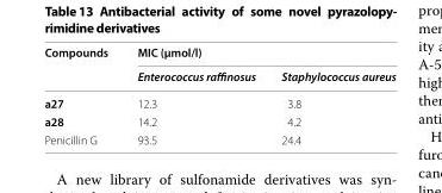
<table><thead><tr><td rowspan="2">Compounds</td><td colspan="2">MIC (µmol/l)</td></tr><tr><td>Enterococcus raffinosus</td><td>Staphylococcus aureus</td></tr></thead><tbody><tr><td>a27</td><td>12.3</td><td>3.8</td></tr><tr><td>a28</td><td>14.2</td><td>4.2</td></tr><tr><td>Penicillin G</td><td>93.5</td><td>24.4</td></tr></tbody></table>